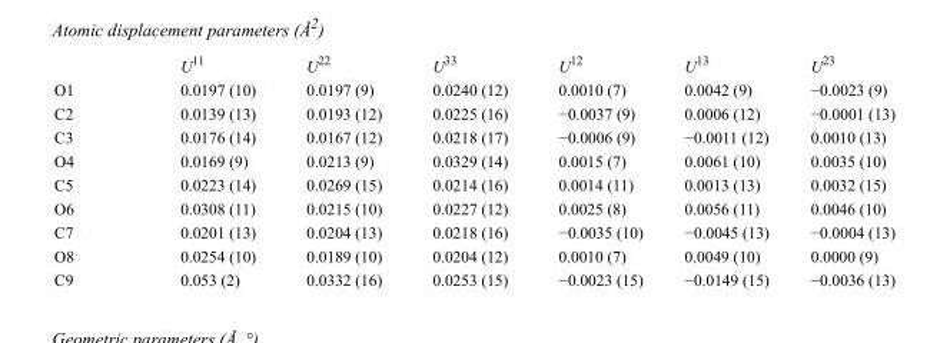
<table><thead><tr><td></td><td>U<sup>11</sup></td><td>U<sup>22</sup></td><td>U<sup>33</sup></td><td>U<sup>12</sup></td><td>U<sup>13</sup></td><td>U<sup>23</sup></td></tr></thead><tbody><tr><td>O1</td><td>0.0197 (10)</td><td>0.0197 (9)</td><td>0.0240 (12)</td><td>0.0010 (7)</td><td>0.0042 (9)</td><td>−0.0023 (9)</td></tr><tr><td>C2</td><td>0.0139 (13)</td><td>0.0193 (12)</td><td>0.0225 (16)</td><td>−0.0037 (9)</td><td>0.0006 (12)</td><td>−0.0001 (13)</td></tr><tr><td>C3</td><td>0.0176 (14)</td><td>0.0167 (12)</td><td>0.0218 (17)</td><td>−0.0006 (9)</td><td>−0.0011 (12)</td><td>0.0010 (13)</td></tr><tr><td>O4</td><td>0.0169 (9)</td><td>0.0213 (9)</td><td>0.0329 (14)</td><td>0.0015 (7)</td><td>0.0061 (10)</td><td>0.0035 (10)</td></tr><tr><td>C5</td><td>0.0223 (14)</td><td>0.0269 (15)</td><td>0.0214 (16)</td><td>0.0014 (11)</td><td>0.0013 (13)</td><td>0.0032 (15)</td></tr><tr><td>O6</td><td>0.0308 (11)</td><td>0.0215 (10)</td><td>0.0227 (12)</td><td>0.0025 (8)</td><td>0.0056 (11)</td><td>0.0046 (10)</td></tr><tr><td>C7</td><td>0.0201 (13)</td><td>0.0204 (13)</td><td>0.0218 (16)</td><td>−0.0035 (10)</td><td>−0.0045 (13)</td><td>−0.0004 (13)</td></tr><tr><td>O8</td><td>0.0254 (10)</td><td>0.0189 (10)</td><td>0.0204 (12)</td><td>0.0010 (7)</td><td>0.0049 (10)</td><td>0.0000 (9)</td></tr><tr><td>C9</td><td>0.053 (2)</td><td>0.0332 (16)</td><td>0.0253 (15)</td><td>−0.0023 (15)</td><td>−0.0149 (15)</td><td>−0.0036 (13)</td></tr></tbody></table>